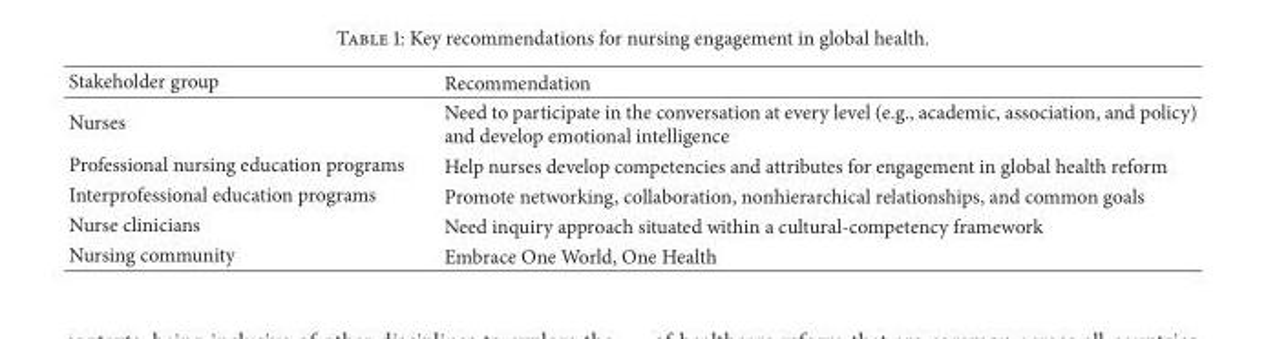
<table><thead><tr><td>Stakeholder group</td><td>Recommendation</td></tr></thead><tbody><tr><td>Nurses</td><td>Need to participate in the conversation at every level (e.g., academic, association, and policy) and develop emotional intelligence</td></tr><tr><td>Professional nursing education programs</td><td>Help nurses develop competencies and attributes for engagement in global health reform</td></tr><tr><td>Interprofessional education programs</td><td>Promote networking, collaboration, nonhierarchical relationships, and common goals</td></tr><tr><td>Nurse clinicians</td><td>Need inquiry approach situated within a cultural-competency framework</td></tr><tr><td>Nursing community</td><td>Embrace One World, One Health</td></tr></tbody></table>